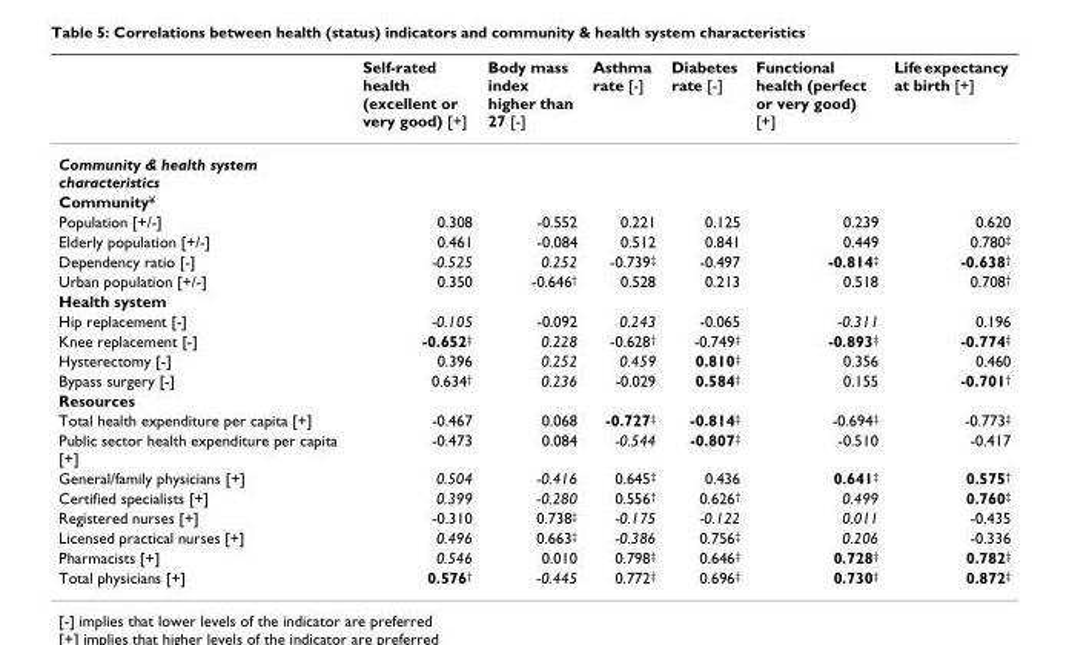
<table><thead><tr><td></td><td>Self-rated health (excellent or very good) [+]</td><td>Body mass index higher than 27 [-]</td><td>Asthma rate [-]</td><td>Diabetes rate [-]</td><td>Functional health (perfect or very good) [+]</td><td>Life expectancy at birth [+]</td></tr></thead><tbody><tr><td colspan="7">Community &amp; health system characteristics</td></tr><tr><td colspan="7">Community<sup>¥</sup></td></tr><tr><td>Population [+/-]</td><td>0.308</td><td>-0.552</td><td>0.221</td><td>0.125</td><td>0.239</td><td>0.620</td></tr><tr><td>Elderly population [+/-]</td><td>0.461</td><td>-0.084</td><td>0.512</td><td>0.841</td><td>0.449</td><td>0.780<sup>‡</sup></td></tr><tr><td>Dependency ratio [-]</td><td>-0.525</td><td>0.252</td><td>-0.739<sup>‡</sup></td><td>-0.497</td><td>-0.814<sup>‡</sup></td><td>-0.638<sup>†</sup></td></tr><tr><td>Urban population [+/-]</td><td>0.350</td><td>-0.646<sup>†</sup></td><td>0.528</td><td>0.213</td><td>0.518</td><td>0.708<sup>†</sup></td></tr><tr><td colspan="7">Health system</td></tr><tr><td>Hip replacement [-]</td><td>-0.105</td><td>-0.092</td><td>0.243</td><td>-0.065</td><td>-0.311</td><td>0.196</td></tr><tr><td>Knee replacement [-]</td><td>-0.652<sup>‡</sup></td><td>0.228</td><td>-0.628<sup>†</sup></td><td>-0.749<sup>‡</sup></td><td>-0.893<sup>‡</sup></td><td>-0.774<sup>‡</sup></td></tr><tr><td>Hysterectomy [-]</td><td>0.396</td><td>0.252</td><td>0.459</td><td>0.810<sup>‡</sup></td><td>0.356</td><td>0.460</td></tr><tr><td>Bypass surgery [-]</td><td>0.634<sup>†</sup></td><td>0.236</td><td>-0.029</td><td>0.584<sup>‡</sup></td><td>0.155</td><td>-0.701<sup>†</sup></td></tr><tr><td colspan="7">Resources</td></tr><tr><td>Total health expenditure per capita [+]</td><td>-0.467</td><td>0.068</td><td>-0.727<sup>‡</sup></td><td>-0.814<sup>‡</sup></td><td>-0.694<sup>‡</sup></td><td>-0.773<sup>‡</sup></td></tr><tr><td>Public sector health expenditure per capita [+]</td><td>-0.473</td><td>0.084</td><td>-0.544</td><td>-0.807<sup>‡</sup></td><td>-0.510</td><td>-0.417</td></tr><tr><td>General/family physicians [+]</td><td>0.504</td><td>-0.416</td><td>0.645<sup>‡</sup></td><td>0.436</td><td>0.641<sup>‡</sup></td><td>0.575<sup>†</sup></td></tr><tr><td>Certified specialists [+]</td><td>0.399</td><td>-0.280</td><td>0.556<sup>†</sup></td><td>0.626<sup>†</sup></td><td>0.499</td><td>0.760<sup>‡</sup></td></tr><tr><td>Registered nurses [+]</td><td>-0.310</td><td>0.738<sup>‡</sup></td><td>-0.175</td><td>-0.122</td><td>0.011</td><td>-0.435</td></tr><tr><td>Licensed practical nurses [+]</td><td>0.496</td><td>0.663<sup>‡</sup></td><td>-0.386</td><td>0.756<sup>‡</sup></td><td>0.206</td><td>-0.336</td></tr><tr><td>Pharmacists [+]</td><td>0.546</td><td>0.010</td><td>0.798<sup>‡</sup></td><td>0.646<sup>‡</sup></td><td>0.728<sup>‡</sup></td><td>0.782<sup>‡</sup></td></tr><tr><td>Total physicians [+]</td><td>0.576<sup>†</sup></td><td>-0.445</td><td>0.772<sup>‡</sup></td><td>0.696<sup>‡</sup></td><td>0.730<sup>‡</sup></td><td>0.872<sup>‡</sup></td></tr></tbody></table>